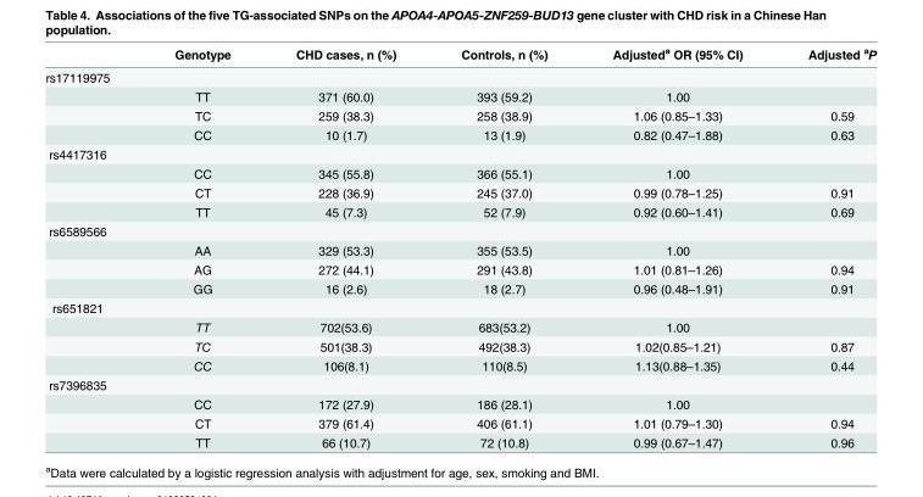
<table><thead><tr><td></td><td>Genotype</td><td>CHD cases, n (%)</td><td>Controls, n (%)</td><td>Adjusted<sup>a</sup> OR (95% CI)</td><td>Adjusted <sup>a</sup>P</td></tr></thead><tbody><tr><td colspan="6">rs17119975</td></tr><tr><td></td><td>TT</td><td>371 (60.0)</td><td>393 (59.2)</td><td>1.00</td><td></td></tr><tr><td></td><td>TC</td><td>259 (38.3)</td><td>258 (38.9)</td><td>1.06 (0.85–1.33)</td><td>0.59</td></tr><tr><td></td><td>CC</td><td>10 (1.7)</td><td>13 (1.9)</td><td>0.82 (0.47–1.88)</td><td>0.63</td></tr><tr><td colspan="6">rs4417316</td></tr><tr><td></td><td>CC</td><td>345 (55.8)</td><td>366 (55.1)</td><td>1.00</td><td></td></tr><tr><td></td><td>CT</td><td>228 (36.9)</td><td>245 (37.0)</td><td>0.99 (0.78–1.25)</td><td>0.91</td></tr><tr><td></td><td>TT</td><td>45 (7.3)</td><td>52 (7.9)</td><td>0.92 (0.60–1.41)</td><td>0.69</td></tr><tr><td colspan="6">rs6589566</td></tr><tr><td></td><td>AA</td><td>329 (53.3)</td><td>355 (53.5)</td><td>1.00</td><td></td></tr><tr><td></td><td>AG</td><td>272 (44.1)</td><td>291 (43.8)</td><td>1.01 (0.81–1.26)</td><td>0.94</td></tr><tr><td></td><td>GG</td><td>16 (2.6)</td><td>18 (2.7)</td><td>0.96 (0.48–1.91)</td><td>0.91</td></tr><tr><td colspan="6">rs651821</td></tr><tr><td></td><td>TT</td><td>702(53.6)</td><td>683(53.2)</td><td>1.00</td><td></td></tr><tr><td></td><td>TC</td><td>501(38.3)</td><td>492(38.3)</td><td>1.02(0.85–1.21)</td><td>0.87</td></tr><tr><td></td><td>CC</td><td>106(8.1)</td><td>110(8.5)</td><td>1.13(0.88–1.35)</td><td>0.44</td></tr><tr><td colspan="6">rs7396835</td></tr><tr><td></td><td>CC</td><td>172 (27.9)</td><td>186 (28.1)</td><td>1.00</td><td></td></tr><tr><td></td><td>CT</td><td>379 (61.4)</td><td>406 (61.1)</td><td>1.01 (0.79–1.30)</td><td>0.94</td></tr><tr><td></td><td>TT</td><td>66 (10.7)</td><td>72 (10.8)</td><td>0.99 (0.67–1.47)</td><td>0.96</td></tr></tbody></table>